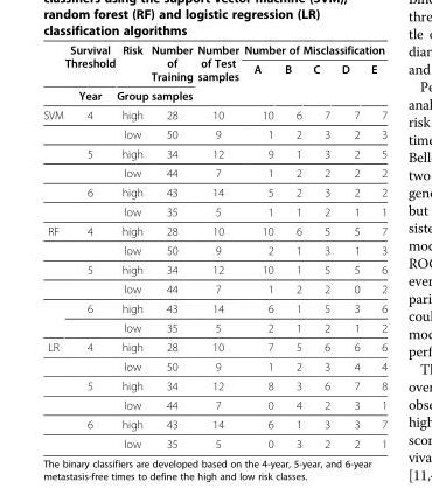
<table><thead><tr><td rowspan="3"></td><td rowspan="3">Survival Threshold Year</td><td rowspan="3">Risk Group</td><td rowspan="3">Number of Training samples</td><td rowspan="3">Number of Test samples</td><td colspan="5">Number of Misclassification</td></tr><tr><td rowspan="2">A</td><td rowspan="2">B</td><td rowspan="2">C</td><td rowspan="2">D</td><td rowspan="2">E</td></tr><tr></tr></thead><tbody><tr><td rowspan="6">SVM</td><td>4</td><td>high</td><td>28</td><td>10</td><td>10</td><td>6</td><td>7</td><td>7</td><td>7</td></tr><tr><td></td><td>low</td><td>50</td><td>9</td><td>1</td><td>2</td><td>3</td><td>2</td><td>3</td></tr><tr><td>5</td><td>high</td><td>34</td><td>12</td><td>9</td><td>1</td><td>3</td><td>2</td><td>5</td></tr><tr><td></td><td>low</td><td>44</td><td>7</td><td>1</td><td>2</td><td>2</td><td>2</td><td>2</td></tr><tr><td>6</td><td>high</td><td>43</td><td>14</td><td>5</td><td>2</td><td>3</td><td>2</td><td>2</td></tr><tr><td></td><td>low</td><td>35</td><td>5</td><td>1</td><td>1</td><td>2</td><td>1</td><td>1</td></tr><tr><td rowspan="6">RF</td><td>4</td><td>high</td><td>28</td><td>10</td><td>10</td><td>6</td><td>5</td><td>5</td><td>7</td></tr><tr><td></td><td>low</td><td>50</td><td>9</td><td>2</td><td>1</td><td>3</td><td>1</td><td>3</td></tr><tr><td>5</td><td>high</td><td>34</td><td>12</td><td>10</td><td>1</td><td>5</td><td>5</td><td>6</td></tr><tr><td></td><td>low</td><td>44</td><td>7</td><td>1</td><td>2</td><td>2</td><td>0</td><td>2</td></tr><tr><td>6</td><td>high</td><td>43</td><td>14</td><td>6</td><td>1</td><td>5</td><td>3</td><td>6</td></tr><tr><td></td><td>low</td><td>35</td><td>5</td><td>2</td><td>1</td><td>2</td><td>1</td><td>2</td></tr><tr><td rowspan="6">LR</td><td>4</td><td>high</td><td>28</td><td>10</td><td>7</td><td>5</td><td>6</td><td>6</td><td>6</td></tr><tr><td></td><td>low</td><td>50</td><td>9</td><td>1</td><td>2</td><td>3</td><td>4</td><td>4</td></tr><tr><td>5</td><td>high</td><td>34</td><td>12</td><td>8</td><td>3</td><td>6</td><td>7</td><td>8</td></tr><tr><td></td><td>low</td><td>44</td><td>7</td><td>0</td><td>4</td><td>2</td><td>3</td><td>1</td></tr><tr><td>6</td><td>high</td><td>43</td><td>14</td><td>6</td><td>1</td><td>3</td><td>3</td><td>7</td></tr><tr><td></td><td>low</td><td>35</td><td>5</td><td>0</td><td>3</td><td>2</td><td>2</td><td>1</td></tr></tbody></table>